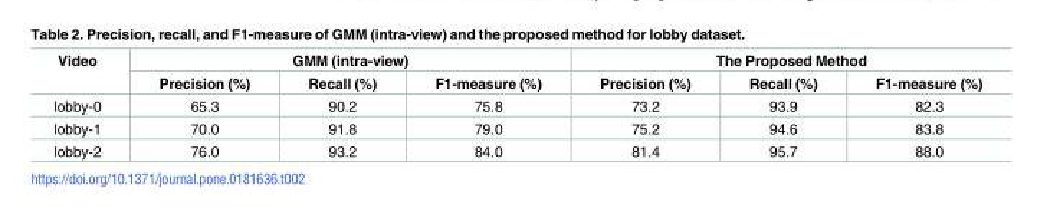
<table><thead><tr><td rowspan="2">Video</td><td colspan="3">GMM (intra-view)</td><td colspan="3">The Proposed Method</td></tr><tr><td>Precision (%)</td><td>Recall (%)</td><td>F1-measure (%)</td><td>Precision (%)</td><td>Recall (%)</td><td>F1-measure (%)</td></tr></thead><tbody><tr><td>lobby-0</td><td>65.3</td><td>90.2</td><td>75.8</td><td>73.2</td><td>93.9</td><td>82.3</td></tr><tr><td>lobby-1</td><td>70.0</td><td>91.8</td><td>79.0</td><td>75.2</td><td>94.6</td><td>83.8</td></tr><tr><td>lobby-2</td><td>76.0</td><td>93.2</td><td>84.0</td><td>81.4</td><td>95.7</td><td>88.0</td></tr></tbody></table>